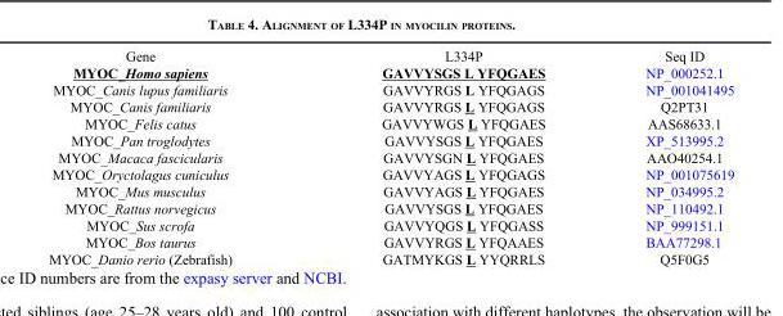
<table><tbody><tr><td>Gene</td><td>L334P</td><td>Seq ID</td></tr><tr><td>MYOC_Homo sapiens</td><td>GAVVYSGS L YFQGAES</td><td>NP_000252.1</td></tr><tr><td>MYOC_Canis lupus familiaris</td><td>GAVVYRGS L YFQGAGS</td><td>NP_001041495</td></tr><tr><td>MYOC_Canis familiaris</td><td>GAVVYRGS L YFQGAGS</td><td>Q2PT31</td></tr><tr><td>MYOC_Felis catus</td><td>GAVVYWGS L YFQGAES</td><td>AAS68633.1</td></tr><tr><td>MYOC_Pan troglodytes</td><td>GAVVYSGS L YFQGAES</td><td>XP_513995.2</td></tr><tr><td>MYOC_Macaca fascicularis</td><td>GAVVYSGN L YFQGAES</td><td>AAO40254.1</td></tr><tr><td>MYOC_Oryctolagus cuniculus</td><td>GAVVYAGS L YFQGAGS</td><td>NP_001075619</td></tr><tr><td>MYOC_Mus musculus</td><td>GAVVYAGS L YFQGAES</td><td>NP_034995.2</td></tr><tr><td>MYOC_Rattus norvegicus</td><td>GAVVYSGS L YFQGAES</td><td>NP_110492.1</td></tr><tr><td>MYOC_Sus scrofa</td><td>GAVVYQGS L YFQGASS</td><td>NP_999151.1</td></tr><tr><td>MYOC_Bos taurus</td><td>GAVVYRGS L YFQAAES</td><td>BAA77298.1</td></tr><tr><td>MYOC_Danio rerio (Zebrafish)</td><td>GATMYKGS L YYQRRLS</td><td>Q5F0G5</td></tr></tbody></table>